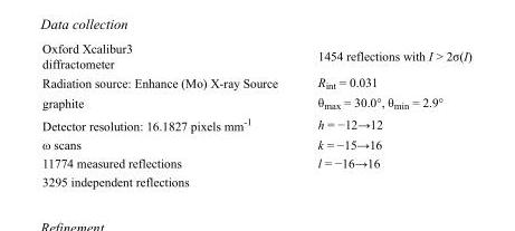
<table><tbody><tr><td>Oxford Xcalibur3 diffractometer</td><td>1454 reflections with I &gt; 2σ(I)</td></tr><tr><td>Radiation source: Enhance (Mo) X-ray Source</td><td>R<sub>int</sub> = 0.031</td></tr><tr><td>graphite</td><td>θ<sub>max</sub> = 30.0°, θ<sub>min</sub> = 2.9°</td></tr><tr><td>Detector resolution: 16.1827 pixels mm<sup>-1</sup></td><td>h = −12→12</td></tr><tr><td>ω scans</td><td>k = −15→16</td></tr><tr><td>11774 measured reflections</td><td>l = −16→16</td></tr><tr><td>3295 independent reflections</td><td></td></tr></tbody></table>